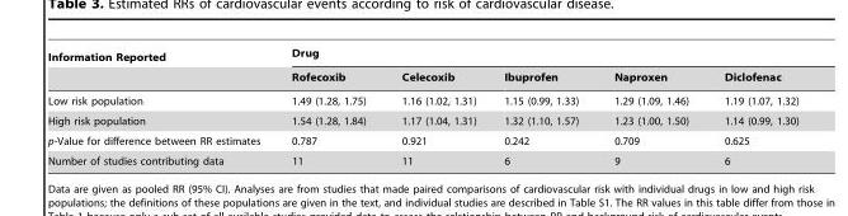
<table><thead><tr><td rowspan="2">Information Reported</td><td colspan="5">Drug</td></tr><tr><td>Rofecoxib</td><td>Celecoxib</td><td>Ibuprofen</td><td>Naproxen</td><td>Diclofenac</td></tr></thead><tbody><tr><td>Low risk population</td><td>1.49 (1.28, 1.75)</td><td>1.16 (1.02, 1.31)</td><td>1.15 (0.99, 1.33)</td><td>1.29 (1.09, 1.46)</td><td>1.19 (1.07, 1.32)</td></tr><tr><td>High risk population</td><td>1.54 (1.28, 1.84)</td><td>1.17 (1.04, 1.31)</td><td>1.32 (1.10, 1.57)</td><td>1.23 (1.00, 1.50)</td><td>1.14 (0.99, 1.30)</td></tr><tr><td>p-Value for difference between RR estimates</td><td>0.787</td><td>0.921</td><td>0.242</td><td>0.709</td><td>0.625</td></tr><tr><td>Number of studies contributing data</td><td>11</td><td>11</td><td>6</td><td>9</td><td>6</td></tr></tbody></table>